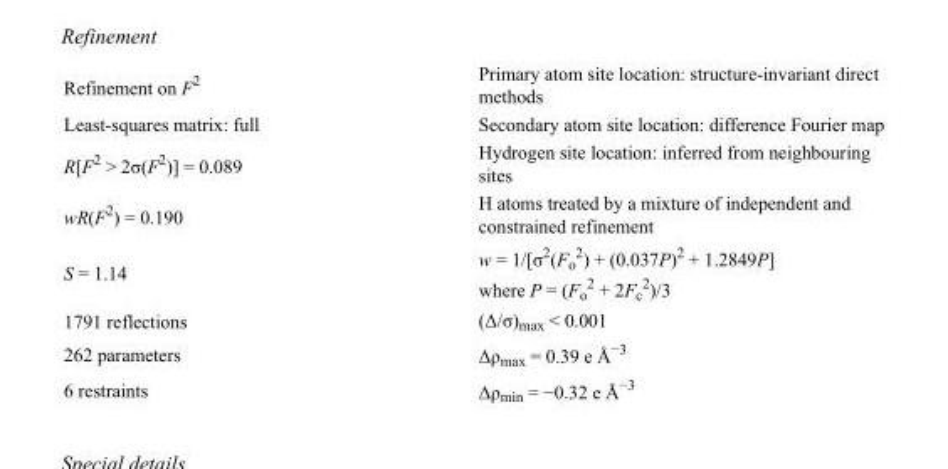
<table><tbody><tr><td>Refinement on F<sup>2</sup></td><td>Primary atom site location: structure-invariant direct methods</td></tr><tr><td>Least-squares matrix: full</td><td>Secondary atom site location: difference Fourier map</td></tr><tr><td>R[F<sup>2</sup> &gt; 2σ(F<sup>2</sup>)] = 0.089</td><td>Hydrogen site location: inferred from neighbouring sites</td></tr><tr><td>wR(F<sup>2</sup>) = 0.190</td><td>H atoms treated by a mixture of independent and constrained refinement</td></tr><tr><td>S = 1.14</td><td>w = 1/[σ<sup>2</sup>(F<sub>o</sub> <sup>2</sup>) + (0.037P)<sup>2</sup> + 1.2849P] where P = (F<sub>o</sub> <sup>2</sup> + 2F<sub>c</sub> <sup>2</sup>)/3</td></tr><tr><td>1791 reflections</td><td>(Δ/σ)<sub>max</sub> &lt; 0.001</td></tr><tr><td>262 parameters</td><td>Δρ<sub>max</sub> = 0.39 e Å<sup>−3</sup></td></tr><tr><td>6 restraints</td><td>Δρ<sub>min</sub> = −0.32 e Å<sup>−3</sup></td></tr></tbody></table>